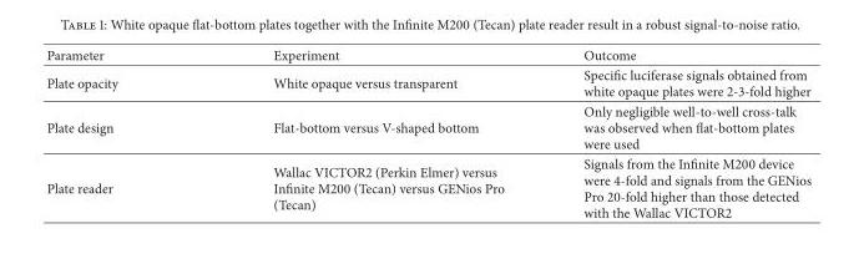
<table><thead><tr><td>Parameter</td><td>Experiment</td><td>Outcome</td></tr></thead><tbody><tr><td>Plate opacity</td><td>White opaque versus transparent</td><td>Specific luciferase signals obtained from white opaque plates were 2-3-fold higher</td></tr><tr><td>Plate design</td><td>Flat-bottom versus V-shaped bottom</td><td>Only negligible well-to-well cross-talk was observed when flat-bottom plates were used</td></tr><tr><td>Plate reader</td><td>Wallac VICTOR2 (Perkin Elmer) versus Infinite M200 (Tecan) versus GENios Pro (Tecan)</td><td>Signals from the Infinite M200 device were 4-fold and signals from the GENios Pro 20-fold higher than those detected with the Wallac VICTOR2</td></tr></tbody></table>